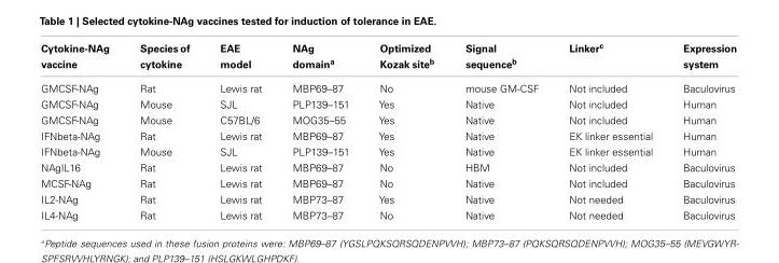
<table><thead><tr><td>Cytokine-NAg vaccine</td><td>Species of cytokine</td><td>EAE model</td><td>NAg domain<sup>a</sup></td><td>Optimized Kozak site<sup>b</sup></td><td>Signal sequence<sup>b</sup></td><td>Linker<sup>c</sup></td><td>Expression system</td></tr></thead><tbody><tr><td>GMCSF-NAg</td><td>Rat</td><td>Lewis rat</td><td>MBP69–87</td><td>No</td><td>mouse GM-CSF</td><td>Not included</td><td>Baculovirus</td></tr><tr><td>GMCSF-NAg</td><td>Mouse</td><td>SJL</td><td>PLP139–151</td><td>Yes</td><td>Native</td><td>Not included</td><td>Human</td></tr><tr><td>GMCSF-NAg</td><td>Mouse</td><td>C57BL/6</td><td>MOG35–55</td><td>Yes</td><td>Native</td><td>Not included</td><td>Human</td></tr><tr><td>IFNbeta-NAg</td><td>Rat</td><td>Lewis rat</td><td>MBP69–87</td><td>Yes</td><td>Native</td><td>EK linker essential</td><td>Human</td></tr><tr><td>IFNbeta-NAg</td><td>Mouse</td><td>SJL</td><td>PLP139–151</td><td>Yes</td><td>Native</td><td>EK linker essential</td><td>Human</td></tr><tr><td>NAgIL16</td><td>Rat</td><td>Lewis rat</td><td>MBP69–87</td><td>No</td><td>HBM</td><td>Not included</td><td>Baculovirus</td></tr><tr><td>MCSF-NAg</td><td>Rat</td><td>Lewis rat</td><td>MBP69–87</td><td>No</td><td>Native</td><td>Not included</td><td>Baculovirus</td></tr><tr><td>IL2-NAg</td><td>Rat</td><td>Lewis rat</td><td>MBP73–87</td><td>Yes</td><td>Native</td><td>Not needed</td><td>Baculovirus</td></tr><tr><td>IL4-NAg</td><td>Rat</td><td>Lewis rat</td><td>MBP73–87</td><td>No</td><td>Native</td><td>Not needed</td><td>Baculovirus</td></tr></tbody></table>